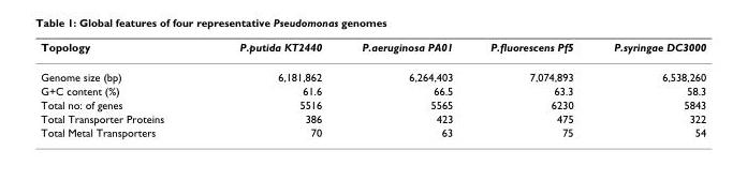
<table><thead><tr><td>Topology</td><td>P.putida KT2440</td><td>P.aeruginosa PA01</td><td>P.fluorescens Pf5</td><td>P.syringae DC3000</td></tr></thead><tbody><tr><td>Genome size (bp)</td><td>6,181,862</td><td>6,264,403</td><td>7,074,893</td><td>6,538,260</td></tr><tr><td>G+C content (%)</td><td>61.6</td><td>66.5</td><td>63.3</td><td>58.3</td></tr><tr><td>Total no: of genes</td><td>5516</td><td>5565</td><td>6230</td><td>5843</td></tr><tr><td>Total Transporter Proteins</td><td>386</td><td>423</td><td>475</td><td>322</td></tr><tr><td>Total Metal Transporters</td><td>70</td><td>63</td><td>75</td><td>54</td></tr></tbody></table>